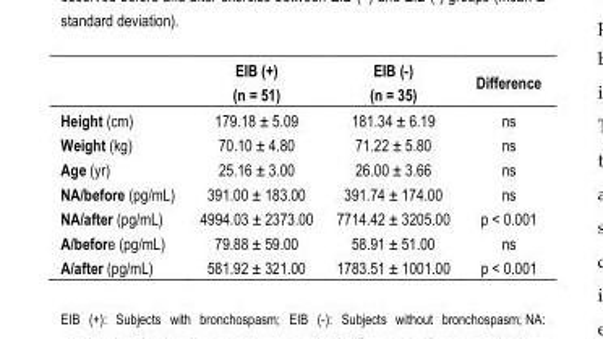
<table><thead><tr><td></td><td>EIB (+) (n = 51)</td><td>EIB (-) (n = 35)</td><td>Difference</td></tr></thead><tbody><tr><td>Height (cm)</td><td>179.18 ± 5.09</td><td>181.34 ± 6.19</td><td>ns</td></tr><tr><td>Weight (kg)</td><td>70.10 ± 4.80</td><td>71.22 ± 5.80</td><td>ns</td></tr><tr><td>Age (yr)</td><td>25.16 ± 3.00</td><td>26.00 ± 3.66</td><td>ns</td></tr><tr><td>NA/before (pg/mL)</td><td>391.00 ± 183.00</td><td>391.74 ± 174.00</td><td>ns</td></tr><tr><td>NA/after (pg/mL)</td><td>4994.03 ± 2373.00</td><td>7714.42 ± 3205.00</td><td>p &lt; 0.001</td></tr><tr><td>A/before (pg/mL)</td><td>79.88 ± 59.00</td><td>58.91 ± 51.00</td><td>ns</td></tr><tr><td>A/after (pg/mL)</td><td>581.92 ± 321.00</td><td>1783.51 ± 1001.00</td><td>p &lt; 0.001</td></tr></tbody></table>